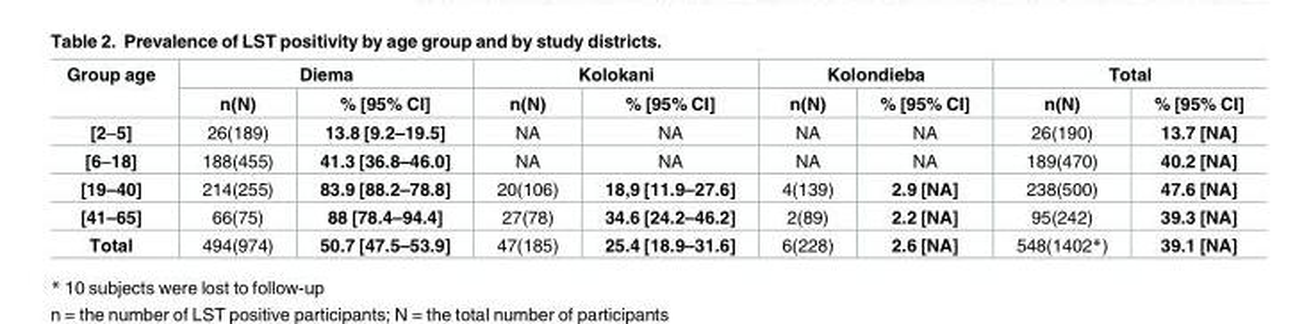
<table><thead><tr><td rowspan="2">Group age</td><td colspan="2">Diema</td><td colspan="2">Kolokani</td><td colspan="2">Kolondieba</td><td colspan="2">Total</td></tr><tr><td>n(N)</td><td>% [95% CI]</td><td>n(N)</td><td>% [95% CI]</td><td>n(N)</td><td>% [95% CI]</td><td>n(N)</td><td>% [95% CI]</td></tr></thead><tbody><tr><td>[2–5]</td><td>26(189)</td><td>13.8 [9.2–19.5]</td><td>NA</td><td>NA</td><td>NA</td><td>NA</td><td>26(190)</td><td>13.7 [NA]</td></tr><tr><td>[6–18]</td><td>188(455)</td><td>41.3 [36.8–46.0]</td><td>NA</td><td>NA</td><td>NA</td><td>NA</td><td>189(470)</td><td>40.2 [NA]</td></tr><tr><td>[19–40]</td><td>214(255)</td><td>83.9 [88.2–78.8]</td><td>20(106)</td><td>18,9 [11.9–27.6]</td><td>4(139)</td><td>2.9 [NA]</td><td>238(500)</td><td>47.6 [NA]</td></tr><tr><td>[41–65]</td><td>66(75)</td><td>88 [78.4–94.4]</td><td>27(78)</td><td>34.6 [24.2–46.2]</td><td>2(89)</td><td>2.2 [NA]</td><td>95(242)</td><td>39.3 [NA]</td></tr><tr><td>Total</td><td>494(974)</td><td>50.7 [47.5–53.9]</td><td>47(185)</td><td>25.4 [18.9–31.6]</td><td>6(228)</td><td>2.6 [NA]</td><td>548(1402*)</td><td>39.1 [NA]</td></tr></tbody></table>